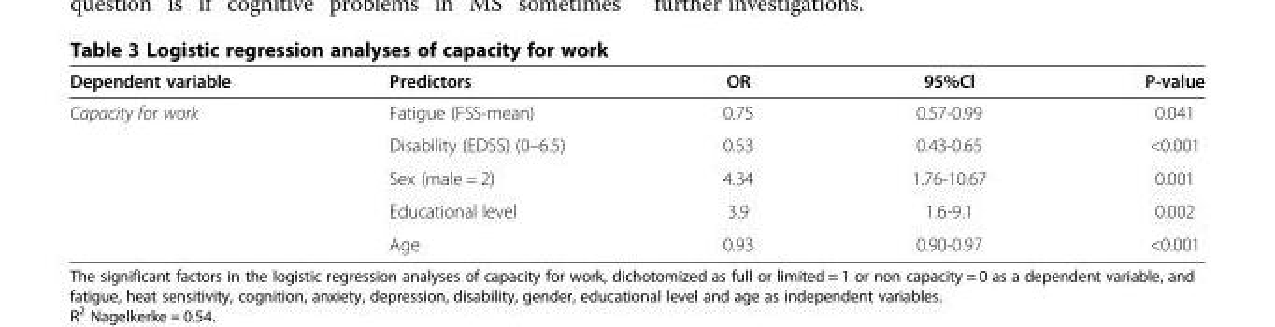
<table><thead><tr><td>Dependent variable</td><td>Predictors</td><td>OR</td><td>95%Cl</td><td>P-value</td></tr></thead><tbody><tr><td rowspan="5">Capacity for work</td><td>Fatigue (FSS-mean)</td><td>0.75</td><td>0.57-0.99</td><td>0.041</td></tr><tr><td>Disability (EDSS) (0–6.5)</td><td>0.53</td><td>0.43-0.65</td><td>&lt;0.001</td></tr><tr><td>Sex (male = 2)</td><td>4.34</td><td>1.76-10.67</td><td>0.001</td></tr><tr><td>Educational level</td><td>3.9</td><td>1.6-9.1</td><td>0.002</td></tr><tr><td>Age</td><td>0.93</td><td>0.90-0.97</td><td>&lt;0.001</td></tr></tbody></table>